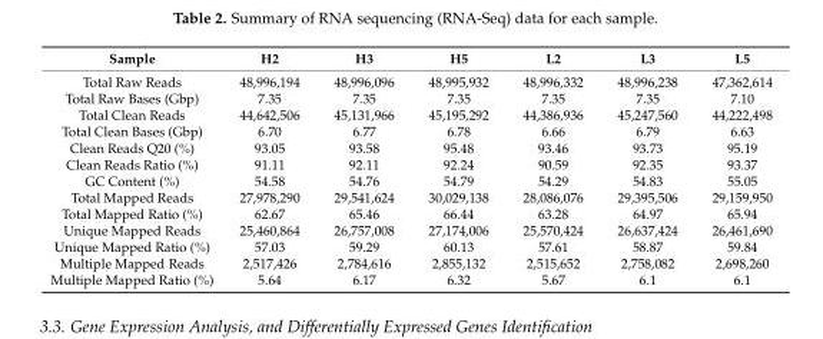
<table><thead><tr><td>Sample</td><td>H2</td><td>H3</td><td>H5</td><td>L2</td><td>L3</td><td>L5</td></tr></thead><tbody><tr><td>Total Raw Reads</td><td>48,996,194</td><td>48,996,096</td><td>48,995,932</td><td>48,996,332</td><td>48,996,238</td><td>47,362,614</td></tr><tr><td>Total Raw Bases (Gbp)</td><td>7.35</td><td>7.35</td><td>7.35</td><td>7.35</td><td>7.35</td><td>7.10</td></tr><tr><td>Total Clean Reads</td><td>44,642,506</td><td>45,131,966</td><td>45,195,292</td><td>44,386,936</td><td>45,247,560</td><td>44,222,498</td></tr><tr><td>Total Clean Bases (Gbp)</td><td>6.70</td><td>6.77</td><td>6.78</td><td>6.66</td><td>6.79</td><td>6.63</td></tr><tr><td>Clean Reads Q20 (%)</td><td>93.05</td><td>93.58</td><td>95.48</td><td>93.46</td><td>93.73</td><td>95.19</td></tr><tr><td>Clean Reads Ratio (%)</td><td>91.11</td><td>92.11</td><td>92.24</td><td>90.59</td><td>92.35</td><td>93.37</td></tr><tr><td>GC Content (%)</td><td>54.58</td><td>54.76</td><td>54.79</td><td>54.29</td><td>54.83</td><td>55.05</td></tr><tr><td>Total Mapped Reads</td><td>27,978,290</td><td>29,541,624</td><td>30,029,138</td><td>28,086,076</td><td>29,395,506</td><td>29,159,950</td></tr><tr><td>Total Mapped Ratio (%)</td><td>62.67</td><td>65.46</td><td>66.44</td><td>63.28</td><td>64.97</td><td>65.94</td></tr><tr><td>Unique Mapped Reads</td><td>25,460,864</td><td>26,757,008</td><td>27,174,006</td><td>25,570,424</td><td>26,637,424</td><td>26,461,690</td></tr><tr><td>Unique Mapped Ratio (%)</td><td>57.03</td><td>59.29</td><td>60.13</td><td>57.61</td><td>58.87</td><td>59.84</td></tr><tr><td>Multiple Mapped Reads</td><td>2,517,426</td><td>2,784,616</td><td>2,855,132</td><td>2,515,652</td><td>2,758,082</td><td>2,698,260</td></tr><tr><td>Multiple Mapped Ratio (%)</td><td>5.64</td><td>6.17</td><td>6.32</td><td>5.67</td><td>6.1</td><td>6.1</td></tr></tbody></table>